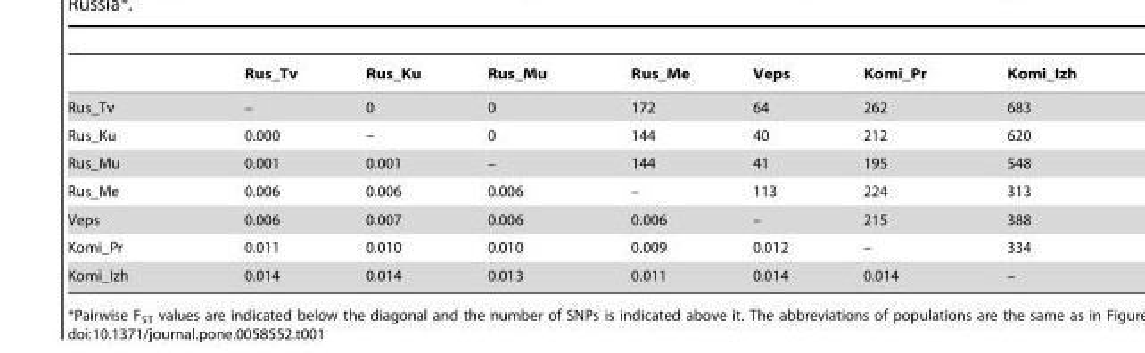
<table><thead><tr><td></td><td>Rus_Tv</td><td>Rus_Ku</td><td>Rus_Mu</td><td>Rus_Me</td><td>Veps</td><td>Komi_Pr</td><td>Komi_Izh</td></tr></thead><tbody><tr><td>Rus_Tv</td><td>–</td><td>0</td><td>0</td><td>172</td><td>64</td><td>262</td><td>683</td></tr><tr><td>Rus_Ku</td><td>0.000</td><td>–</td><td>0</td><td>144</td><td>40</td><td>212</td><td>620</td></tr><tr><td>Rus_Mu</td><td>0.001</td><td>0.001</td><td>–</td><td>144</td><td>41</td><td>195</td><td>548</td></tr><tr><td>Rus_Me</td><td>0.006</td><td>0.006</td><td>0.006</td><td>–</td><td>113</td><td>224</td><td>313</td></tr><tr><td>Veps</td><td>0.006</td><td>0.007</td><td>0.006</td><td>0.006</td><td>–</td><td>215</td><td>388</td></tr><tr><td>Komi_Pr</td><td>0.011</td><td>0.010</td><td>0.010</td><td>0.009</td><td>0.012</td><td>–</td><td>334</td></tr><tr><td>Komi_Izh</td><td>0.014</td><td>0.014</td><td>0.013</td><td>0.011</td><td>0.014</td><td>0.014</td><td>–</td></tr></tbody></table>